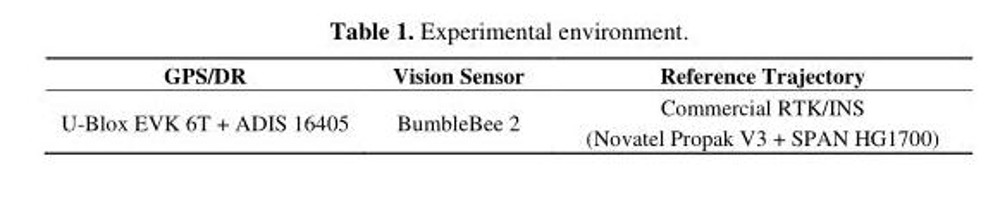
<table><thead><tr><td>GPS/DR</td><td>Vision Sensor</td><td>Reference Trajectory</td></tr></thead><tbody><tr><td>U-Blox EVK 6T + ADIS 16405</td><td>BumbleBee 2</td><td>Commercial RTK/INS (Novatel Propak V3 + SPAN HG1700)</td></tr></tbody></table>